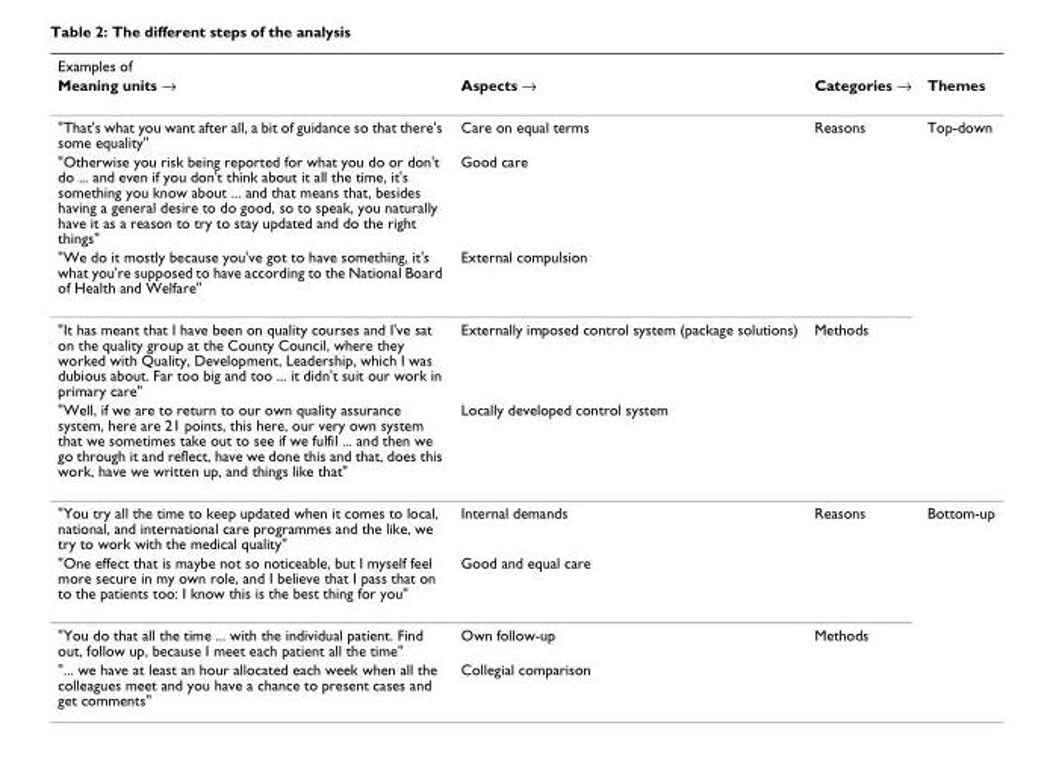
<table><thead><tr><td rowspan="2">Examples of Meaning units →</td><td rowspan="2">Aspects →</td><td rowspan="2">Categories →</td><td rowspan="2">Themes</td></tr><tr></tr></thead><tbody><tr><td>&quot;That&#x27;s what you want after all, a bit of guidance so that there&#x27;s some equality&quot;</td><td>Care on equal terms</td><td>Reasons</td><td>Top-down</td></tr><tr><td>&quot;Otherwise you risk being reported for what you do or don&#x27;t do ... and even if you don&#x27;t think about it all the time, it&#x27;s something you know about ... and that means that, besides having a general desire to do good, so to speak, you naturally have it as a reason to try to stay updated and do the right things&quot;</td><td>Good care</td><td></td><td></td></tr><tr><td>&quot;We do it mostly because you&#x27;ve got to have something, it&#x27;s what you&#x27;re supposed to have according to the National Board of Health and Welfare&quot;</td><td>External compulsion</td><td></td><td></td></tr><tr><td>&quot;It has meant that I have been on quality courses and I&#x27;ve sat on the quality group at the County Council, where they worked with Quality, Development, Leadership, which I was dubious about. Far too big and too ... it didn&#x27;t suit our work in primary care&quot;</td><td>Externally imposed control system (package solutions)</td><td>Methods</td><td></td></tr><tr><td>&quot;Well, if we are to return to our own quality assurance system, here are 21 points, this here, our very own system that we sometimes take out to see if we fulfil ... and then we go through it and reflect, have we done this and that, does this work, have we written up, and things like that&quot;</td><td>Locally developed control system</td><td></td><td></td></tr><tr><td>&quot;You try all the time to keep updated when it comes to local, national, and international care programmes and the like, we try to work with the medical quality&quot;</td><td>Internal demands</td><td>Reasons</td><td>Bottom-up</td></tr><tr><td>&quot;One effect that is maybe not so noticeable, but I myself feel more secure in my own role, and I believe that I pass that on to the patients too: I know this is the best thing for you&quot;</td><td>Good and equal care</td><td></td><td></td></tr><tr><td>&quot;You do that all the time ... with the individual patient. Find out, follow up, because I meet each patient all the time&quot;</td><td>Own follow-up</td><td>Methods</td><td></td></tr><tr><td>&quot;... we have at least an hour allocated each week when all the colleagues meet and you have a chance to present cases and get comments&quot;</td><td>Collegial comparison</td><td></td><td></td></tr></tbody></table>